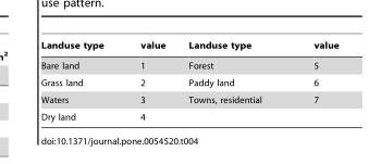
<table><thead><tr><td>Landuse type</td><td>value</td><td>Landuse type</td><td>value</td></tr></thead><tbody><tr><td>Bare land</td><td>1</td><td>Forest</td><td>5</td></tr><tr><td>Grass land</td><td>2</td><td>Paddy land</td><td>6</td></tr><tr><td>Waters</td><td>3</td><td>Towns, residential</td><td>7</td></tr><tr><td>Dry land</td><td>4</td><td></td><td></td></tr></tbody></table>